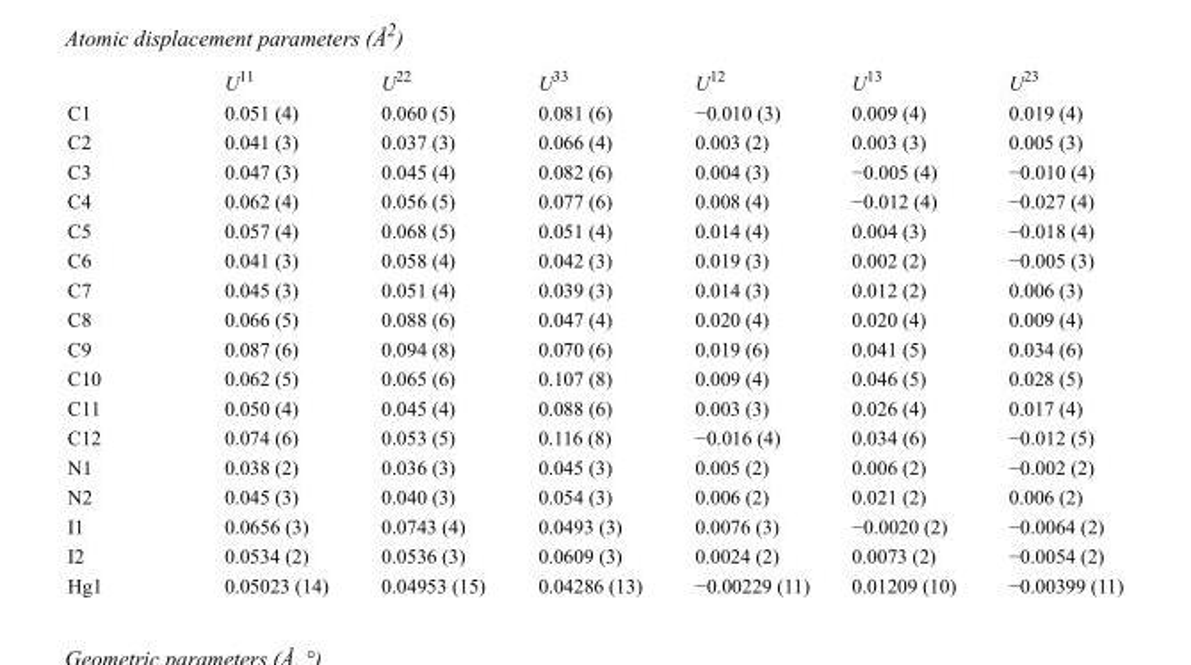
<table><thead><tr><td></td><td>U<sup>11</sup></td><td>U<sup>22</sup></td><td>U<sup>33</sup></td><td>U<sup>12</sup></td><td>U<sup>13</sup></td><td>U<sup>23</sup></td></tr></thead><tbody><tr><td>C1</td><td>0.051 (4)</td><td>0.060 (5)</td><td>0.081 (6)</td><td>−0.010 (3)</td><td>0.009 (4)</td><td>0.019 (4)</td></tr><tr><td>C2</td><td>0.041 (3)</td><td>0.037 (3)</td><td>0.066 (4)</td><td>0.003 (2)</td><td>0.003 (3)</td><td>0.005 (3)</td></tr><tr><td>C3</td><td>0.047 (3)</td><td>0.045 (4)</td><td>0.082 (6)</td><td>0.004 (3)</td><td>−0.005 (4)</td><td>−0.010 (4)</td></tr><tr><td>C4</td><td>0.062 (4)</td><td>0.056 (5)</td><td>0.077 (6)</td><td>0.008 (4)</td><td>−0.012 (4)</td><td>−0.027 (4)</td></tr><tr><td>C5</td><td>0.057 (4)</td><td>0.068 (5)</td><td>0.051 (4)</td><td>0.014 (4)</td><td>0.004 (3)</td><td>−0.018 (4)</td></tr><tr><td>C6</td><td>0.041 (3)</td><td>0.058 (4)</td><td>0.042 (3)</td><td>0.019 (3)</td><td>0.002 (2)</td><td>−0.005 (3)</td></tr><tr><td>C7</td><td>0.045 (3)</td><td>0.051 (4)</td><td>0.039 (3)</td><td>0.014 (3)</td><td>0.012 (2)</td><td>0.006 (3)</td></tr><tr><td>C8</td><td>0.066 (5)</td><td>0.088 (6)</td><td>0.047 (4)</td><td>0.020 (4)</td><td>0.020 (4)</td><td>0.009 (4)</td></tr><tr><td>C9</td><td>0.087 (6)</td><td>0.094 (8)</td><td>0.070 (6)</td><td>0.019 (6)</td><td>0.041 (5)</td><td>0.034 (6)</td></tr><tr><td>C10</td><td>0.062 (5)</td><td>0.065 (6)</td><td>0.107 (8)</td><td>0.009 (4)</td><td>0.046 (5)</td><td>0.028 (5)</td></tr><tr><td>C11</td><td>0.050 (4)</td><td>0.045 (4)</td><td>0.088 (6)</td><td>0.003 (3)</td><td>0.026 (4)</td><td>0.017 (4)</td></tr><tr><td>C12</td><td>0.074 (6)</td><td>0.053 (5)</td><td>0.116 (8)</td><td>−0.016 (4)</td><td>0.034 (6)</td><td>−0.012 (5)</td></tr><tr><td>N1</td><td>0.038 (2)</td><td>0.036 (3)</td><td>0.045 (3)</td><td>0.005 (2)</td><td>0.006 (2)</td><td>−0.002 (2)</td></tr><tr><td>N2</td><td>0.045 (3)</td><td>0.040 (3)</td><td>0.054 (3)</td><td>0.006 (2)</td><td>0.021 (2)</td><td>0.006 (2)</td></tr><tr><td>I1</td><td>0.0656 (3)</td><td>0.0743 (4)</td><td>0.0493 (3)</td><td>0.0076 (3)</td><td>−0.0020 (2)</td><td>−0.0064 (2)</td></tr><tr><td>I2</td><td>0.0534 (2)</td><td>0.0536 (3)</td><td>0.0609 (3)</td><td>0.0024 (2)</td><td>0.0073 (2)</td><td>−0.0054 (2)</td></tr><tr><td>Hg1</td><td>0.05023 (14)</td><td>0.04953 (15)</td><td>0.04286 (13)</td><td>−0.00229 (11)</td><td>0.01209 (10)</td><td>−0.00399 (11)</td></tr></tbody></table>